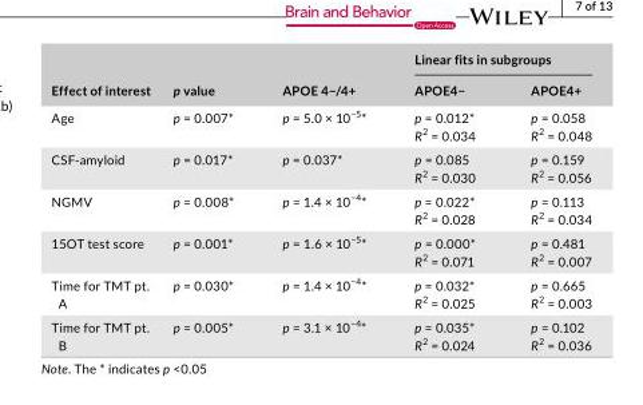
<table><thead><tr><td rowspan="2">Effect of interest</td><td rowspan="2">p value</td><td rowspan="2">APOE 4−/4+</td><td colspan="2">Linear fits in subgroups</td></tr><tr><td>APOE4−</td><td>APOE4+</td></tr></thead><tbody><tr><td>Age</td><td>p = 0.007*</td><td>p = 5.0 × 10<sup>−5</sup>*</td><td>p = 0.012* R<sup>2</sup> = 0.034</td><td>p = 0.058 R<sup>2</sup> = 0.048</td></tr><tr><td>CSF- amyloid</td><td>p = 0.017*</td><td>p = 0.037*</td><td>p = 0.085 R<sup>2</sup> = 0.030</td><td>p = 0.159 R<sup>2</sup> = 0.056</td></tr><tr><td>NGMV</td><td>p = 0.008*</td><td>p = 1.4 × 10<sup>−4</sup>*</td><td>p = 0.022* R<sup>2</sup> = 0.028</td><td>p = 0.113 R<sup>2</sup> = 0.034</td></tr><tr><td>15OT test score</td><td>p = 0.001*</td><td>p = 1.6 × 10<sup>−5</sup>*</td><td>p = 0.000* R<sup>2</sup> = 0.071</td><td>p = 0.481 R<sup>2</sup> = 0.007</td></tr><tr><td>Time for TMT pt. A</td><td>p = 0.030*</td><td>p = 1.4 × 10<sup>−4</sup>*</td><td>p = 0.032* R<sup>2</sup> = 0.025</td><td>p = 0.665 R<sup>2</sup> = 0.003</td></tr><tr><td>Time for TMT pt. B</td><td>p = 0.005*</td><td>p = 3.1 × 10<sup>−4</sup>*</td><td>p = 0.035* R<sup>2</sup> = 0.024</td><td>p = 0.102 R<sup>2</sup> = 0.036</td></tr></tbody></table>